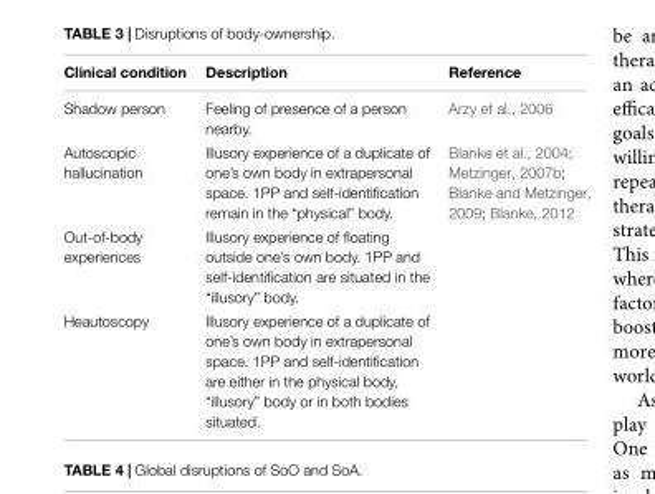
<table><thead><tr><td>Clinical condition</td><td>Description</td><td>Reference</td></tr></thead><tbody><tr><td>Shadow person</td><td>Feeling of presence of a person nearby.</td><td>Arzy et al., 2006</td></tr><tr><td>Autoscopic hallucination</td><td>Illusory experience of a duplicate of one’s own body in extrapersonal space. 1PP and self-identification remain in the “physical” body.</td><td>Blanke et al., 2004; Metzinger, 2007b; Blanke and Metzinger, 2009; Blanke, 2012</td></tr><tr><td>Out-of-body experiences</td><td>Illusory experience of floating outside one’s own body. 1PP and self-identification are situated in the “illusory” body.</td><td></td></tr><tr><td>Heautoscopy</td><td>Illusory experience of a duplicate of one’s own body in extrapersonal space. 1PP and self-identification are either in the physical body, “illusory” body or in both bodies situated.</td><td></td></tr></tbody></table>